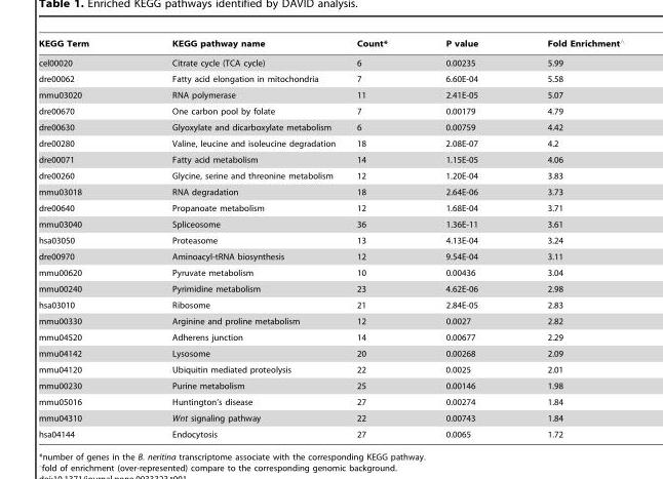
<table><thead><tr><td>KEGG Term</td><td>KEGG pathway name</td><td>Count*</td><td>P value</td><td>Fold Enrichment‘</td></tr></thead><tbody><tr><td>cel00020</td><td>Citrate cycle (TCA cycle)</td><td>6</td><td>0.00235</td><td>5.99</td></tr><tr><td>dre00062</td><td>Fatty acid elongation in mitochondria</td><td>7</td><td>6.60E-04</td><td>5.58</td></tr><tr><td>mmu03020</td><td>RNA polymerase</td><td>11</td><td>2.41E-05</td><td>5.07</td></tr><tr><td>dre00670</td><td>One carbon pool by folate</td><td>7</td><td>0.00179</td><td>4.79</td></tr><tr><td>dre00630</td><td>Glyoxylate and dicarboxylate metabolism</td><td>6</td><td>0.00759</td><td>4.42</td></tr><tr><td>dre00280</td><td>Valine, leucine and isoleucine degradation</td><td>18</td><td>2.08E-07</td><td>4.2</td></tr><tr><td>dre00071</td><td>Fatty acid metabolism</td><td>14</td><td>1.15E-05</td><td>4.06</td></tr><tr><td>dre00260</td><td>Glycine, serine and threonine metabolism</td><td>12</td><td>1.20E-04</td><td>3.83</td></tr><tr><td>mmu03018</td><td>RNA degradation</td><td>18</td><td>2.64E-06</td><td>3.73</td></tr><tr><td>dre00640</td><td>Propanoate metabolism</td><td>12</td><td>1.68E-04</td><td>3.71</td></tr><tr><td>mmu03040</td><td>Spliceosome</td><td>36</td><td>1.36E-11</td><td>3.61</td></tr><tr><td>hsa03050</td><td>Proteasome</td><td>13</td><td>4.13E-04</td><td>3.24</td></tr><tr><td>dre00970</td><td>Aminoacyl-tRNA biosynthesis</td><td>12</td><td>9.54E-04</td><td>3.11</td></tr><tr><td>mmu00620</td><td>Pyruvate metabolism</td><td>10</td><td>0.00436</td><td>3.04</td></tr><tr><td>mmu00240</td><td>Pyrimidine metabolism</td><td>23</td><td>4.62E-06</td><td>2.98</td></tr><tr><td>hsa03010</td><td>Ribosome</td><td>21</td><td>2.84E-05</td><td>2.83</td></tr><tr><td>mmu00330</td><td>Arginine and proline metabolism</td><td>12</td><td>0.0027</td><td>2.82</td></tr><tr><td>mmu04520</td><td>Adherens junction</td><td>14</td><td>0.00677</td><td>2.29</td></tr><tr><td>mmu04142</td><td>Lysosome</td><td>20</td><td>0.00268</td><td>2.09</td></tr><tr><td>mmu04120</td><td>Ubiquitin mediated proteolysis</td><td>22</td><td>0.0025</td><td>2.01</td></tr><tr><td>mmu00230</td><td>Purine metabolism</td><td>25</td><td>0.00146</td><td>1.98</td></tr><tr><td>mmu05016</td><td>Huntington’s disease</td><td>27</td><td>0.00274</td><td>1.84</td></tr><tr><td>mmu04310</td><td>Wnt signaling pathway</td><td>22</td><td>0.00743</td><td>1.84</td></tr><tr><td>hsa04144</td><td>Endocytosis</td><td>27</td><td>0.0065</td><td>1.72</td></tr></tbody></table>